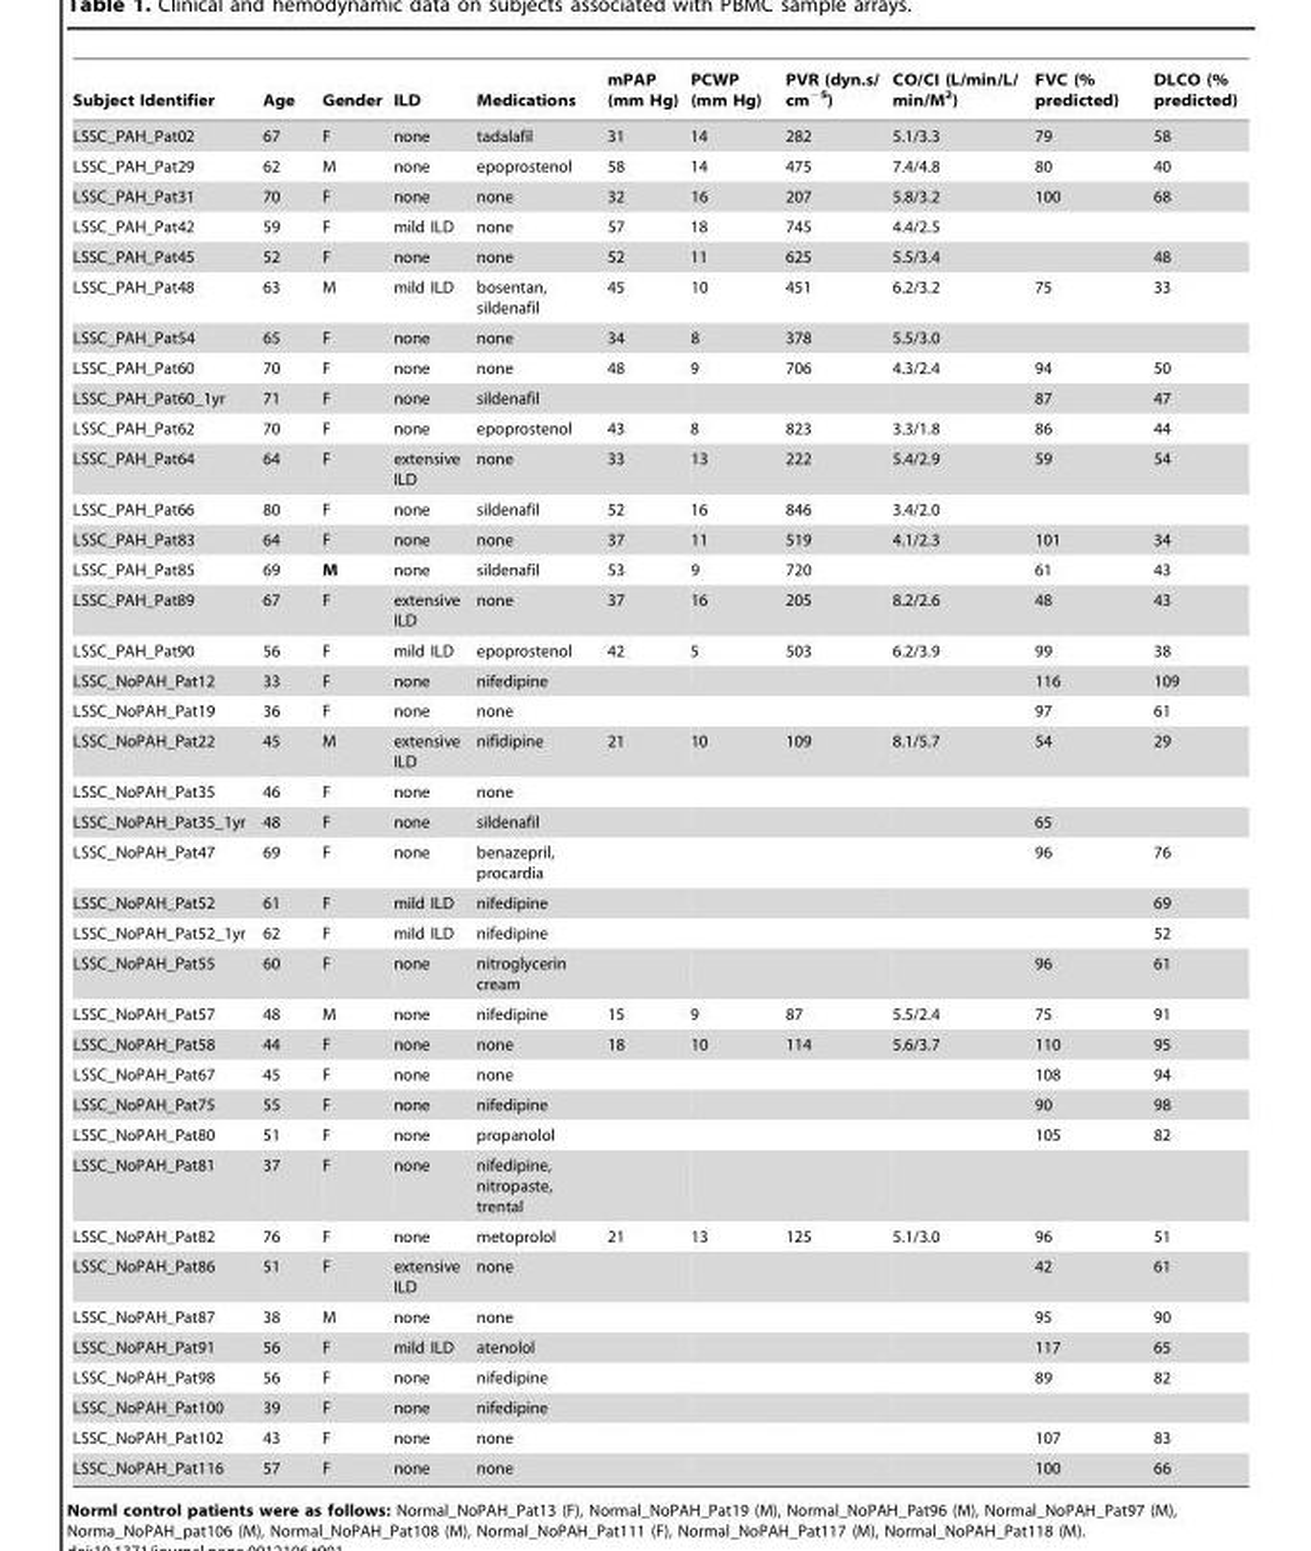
<table><thead><tr><td>Subject Identifier</td><td>Age</td><td>Gender</td><td>ILD</td><td>Medications</td><td>mPAP (mm Hg)</td><td>PCWP (mm Hg)</td><td>PVR (dyn.s/ cm<sup>−5</sup>)</td><td>CO/CI (L/min/L/ min/M<sup>2</sup>)</td><td>FVC (% predicted)</td><td>DLCO (% predicted)</td></tr></thead><tbody><tr><td>LSSC_PAH_Pat02</td><td>67</td><td>F</td><td>none</td><td>tadalafil</td><td>31</td><td>14</td><td>282</td><td>5.1/3.3</td><td>79</td><td>58</td></tr><tr><td>LSSC_PAH_Pat29</td><td>62</td><td>M</td><td>none</td><td>epoprostenol</td><td>58</td><td>14</td><td>475</td><td>7.4/4.8</td><td>80</td><td>40</td></tr><tr><td>LSSC_PAH_Pat31</td><td>70</td><td>F</td><td>none</td><td>none</td><td>32</td><td>16</td><td>207</td><td>5.8/3.2</td><td>100</td><td>68</td></tr><tr><td>LSSC_PAH_Pat42</td><td>59</td><td>F</td><td>mild ILD</td><td>none</td><td>57</td><td>18</td><td>745</td><td>4.4/2.5</td><td></td><td></td></tr><tr><td>LSSC_PAH_Pat45</td><td>52</td><td>F</td><td>none</td><td>none</td><td>52</td><td>11</td><td>625</td><td>5.5/3.4</td><td></td><td>48</td></tr><tr><td>LSSC_PAH_Pat48</td><td>63</td><td>M</td><td>mild ILD</td><td>bosentan, sildenafil</td><td>45</td><td>10</td><td>451</td><td>6.2/3.2</td><td>75</td><td>33</td></tr><tr><td>LSSC_PAH_Pat54</td><td>65</td><td>F</td><td>none</td><td>none</td><td>34</td><td>8</td><td>378</td><td>5.5/3.0</td><td></td><td></td></tr><tr><td>LSSC_PAH_Pat60</td><td>70</td><td>F</td><td>none</td><td>none</td><td>48</td><td>9</td><td>706</td><td>4.3/2.4</td><td>94</td><td>50</td></tr><tr><td>LSSC_PAH_Pat60_1yr</td><td>71</td><td>F</td><td>none</td><td>sildenafil</td><td></td><td></td><td></td><td></td><td>87</td><td>47</td></tr><tr><td>LSSC_PAH_Pat62</td><td>70</td><td>F</td><td>none</td><td>epoprostenol</td><td>43</td><td>8</td><td>823</td><td>3.3/1.8</td><td>86</td><td>44</td></tr><tr><td>LSSC_PAH_Pat64</td><td>64</td><td>F</td><td>extensive ILD</td><td>none</td><td>33</td><td>13</td><td>222</td><td>5.4/2.9</td><td>59</td><td>54</td></tr><tr><td>LSSC_PAH_Pat66</td><td>80</td><td>F</td><td>none</td><td>sildenafil</td><td>52</td><td>16</td><td>846</td><td>3.4/2.0</td><td></td><td></td></tr><tr><td>LSSC_PAH_Pat83</td><td>64</td><td>F</td><td>none</td><td>none</td><td>37</td><td>11</td><td>519</td><td>4.1/2.3</td><td>101</td><td>34</td></tr><tr><td>LSSC_PAH_Pat85</td><td>69</td><td>M</td><td>none</td><td>sildenafil</td><td>53</td><td>9</td><td>720</td><td></td><td>61</td><td>43</td></tr><tr><td>LSSC_PAH_Pat89</td><td>67</td><td>F</td><td>extensive ILD</td><td>none</td><td>37</td><td>16</td><td>205</td><td>8.2/2.6</td><td>48</td><td>43</td></tr><tr><td>LSSC_PAH_Pat90</td><td>56</td><td>F</td><td>mild ILD</td><td>epoprostenol</td><td>42</td><td>5</td><td>503</td><td>6.2/3.9</td><td>99</td><td>38</td></tr><tr><td>LSSC_NoPAH_Pat12</td><td>33</td><td>F</td><td>none</td><td>nifedipine</td><td></td><td></td><td></td><td></td><td>116</td><td>109</td></tr><tr><td>LSSC_NoPAH_Pat19</td><td>36</td><td>F</td><td>none</td><td>none</td><td></td><td></td><td></td><td></td><td>97</td><td>61</td></tr><tr><td>LSSC_NoPAH_Pat22</td><td>45</td><td>M</td><td>extensive ILD</td><td>nifidipine</td><td>21</td><td>10</td><td>109</td><td>8.1/5.7</td><td>54</td><td>29</td></tr><tr><td>LSSC_NoPAH_Pat35</td><td>46</td><td>F</td><td>none</td><td>none</td><td></td><td></td><td></td><td></td><td></td><td></td></tr><tr><td>LSSC_NoPAH_Pat35_1yr</td><td>48</td><td>F</td><td>none</td><td>sildenafil</td><td></td><td></td><td></td><td></td><td>65</td><td></td></tr><tr><td>LSSC_NoPAH_Pat47</td><td>69</td><td>F</td><td>none</td><td>benazepril, procardia</td><td></td><td></td><td></td><td></td><td>96</td><td>76</td></tr><tr><td>LSSC_NoPAH_Pat52</td><td>61</td><td>F</td><td>mild ILD</td><td>nifedipine</td><td></td><td></td><td></td><td></td><td></td><td>69</td></tr><tr><td>LSSC_NoPAH_Pat52_1yr</td><td>62</td><td>F</td><td>mild ILD</td><td>nifedipine</td><td></td><td></td><td></td><td></td><td></td><td>52</td></tr><tr><td>LSSC_NoPAH_Pat55</td><td>60</td><td>F</td><td>none</td><td>nitroglycerin cream</td><td></td><td></td><td></td><td></td><td>96</td><td>61</td></tr><tr><td>LSSC_NoPAH_Pat57</td><td>48</td><td>M</td><td>none</td><td>nifedipine</td><td>15</td><td>9</td><td>87</td><td>5.5/2.4</td><td>75</td><td>91</td></tr><tr><td>LSSC_NoPAH_Pat58</td><td>44</td><td>F</td><td>none</td><td>none</td><td>18</td><td>10</td><td>114</td><td>5.6/3.7</td><td>110</td><td>95</td></tr><tr><td>LSSC_NoPAH_Pat67</td><td>45</td><td>F</td><td>none</td><td>none</td><td></td><td></td><td></td><td></td><td>108</td><td>94</td></tr><tr><td>LSSC_NoPAH_Pat75</td><td>55</td><td>F</td><td>none</td><td>nifedipine</td><td></td><td></td><td></td><td></td><td>90</td><td>98</td></tr><tr><td>LSSC_NoPAH_Pat80</td><td>51</td><td>F</td><td>none</td><td>propanolol</td><td></td><td></td><td></td><td></td><td>105</td><td>82</td></tr><tr><td>LSSC_NoPAH_Pat81</td><td>37</td><td>F</td><td>none</td><td>nifedipine, nitropaste, trental</td><td></td><td></td><td></td><td></td><td></td><td></td></tr><tr><td>LSSC_NoPAH_Pat82</td><td>76</td><td>F</td><td>none</td><td>metoprolol</td><td>21</td><td>13</td><td>125</td><td>5.1/3.0</td><td>96</td><td>51</td></tr><tr><td>LSSC_NoPAH_Pat86</td><td>51</td><td>F</td><td>extensive ILD</td><td>none</td><td></td><td></td><td></td><td></td><td>42</td><td>61</td></tr><tr><td>LSSC_NoPAH_Pat87</td><td>38</td><td>M</td><td>none</td><td>none</td><td></td><td></td><td></td><td></td><td>95</td><td>90</td></tr><tr><td>LSSC_NoPAH_Pat91</td><td>56</td><td>F</td><td>mild ILD</td><td>atenolol</td><td></td><td></td><td></td><td></td><td>117</td><td>65</td></tr><tr><td>LSSC_NoPAH_Pat98</td><td>56</td><td>F</td><td>none</td><td>nifedipine</td><td></td><td></td><td></td><td></td><td>89</td><td>82</td></tr><tr><td>LSSC_NoPAH_Pat100</td><td>39</td><td>F</td><td>none</td><td>nifedipine</td><td></td><td></td><td></td><td></td><td></td><td></td></tr><tr><td>LSSC_NoPAH_Pat102</td><td>43</td><td>F</td><td>none</td><td>none</td><td></td><td></td><td></td><td></td><td>107</td><td>83</td></tr><tr><td>LSSC_NoPAH_Pat116</td><td>57</td><td>F</td><td>none</td><td>none</td><td></td><td></td><td></td><td></td><td>100</td><td>66</td></tr></tbody></table>